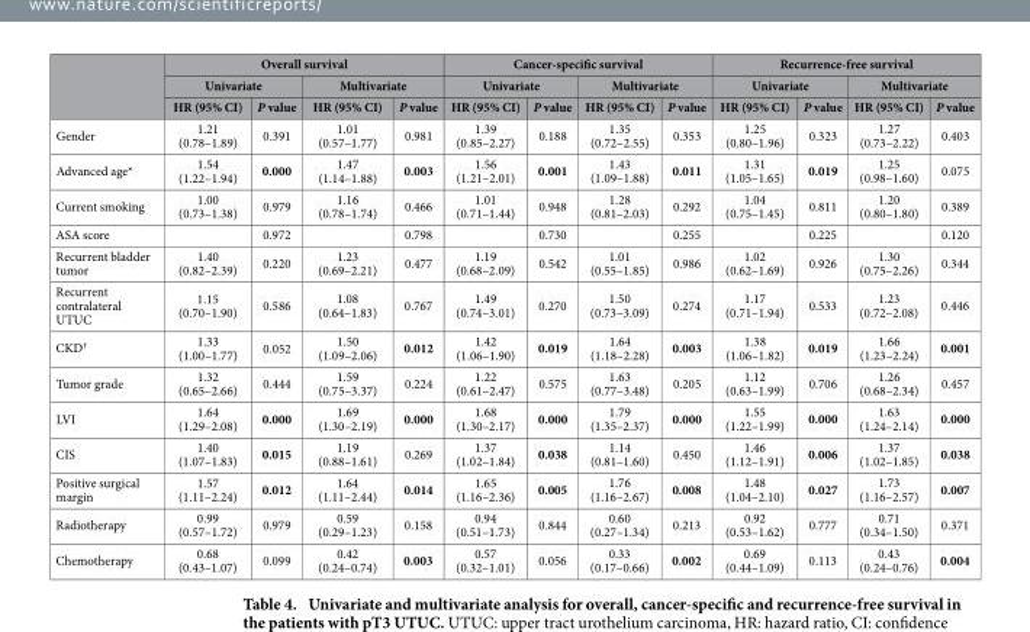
<table><thead><tr><td rowspan="3"></td><td colspan="4">Overall survival</td><td colspan="4">Cancer-specific survival</td><td colspan="4">Recurrence-free survival</td></tr><tr><td colspan="2">Univariate</td><td colspan="2">Multivariate</td><td colspan="2">Univariate</td><td colspan="2">Multivariate</td><td colspan="2">Univariate</td><td colspan="2">Multivariate</td></tr><tr><td>HR (95% CI)</td><td>P value</td><td>HR (95% CI)</td><td>P value</td><td>HR (95% CI)</td><td>P value</td><td>HR (95% CI)</td><td>P value</td><td>HR (95% CI)</td><td>P value</td><td>HR (95% CI)</td><td>P value</td></tr></thead><tbody><tr><td>Gender</td><td>1.21 (0.78–1.89)</td><td>0.391</td><td>1.01 (0.57–1.77)</td><td>0.981</td><td>1.39 (0.85–2.27)</td><td>0.188</td><td>1.35 (0.72–2.55)</td><td>0.353</td><td>1.25 (0.80–1.96)</td><td>0.323</td><td>1.27 (0.73–2.22)</td><td>0.403</td></tr><tr><td>Advanced age*</td><td>1.54 (1.22–1.94)</td><td>0.000</td><td>1.47 (1.14–1.88)</td><td>0.003</td><td>1.56 (1.21–2.01)</td><td>0.001</td><td>1.43 (1.09–1.88)</td><td>0.011</td><td>1.31 (1.05–1.65)</td><td>0.019</td><td>1.25 (0.98–1.60)</td><td>0.075</td></tr><tr><td>Current smoking</td><td>1.00 (0.73–1.38)</td><td>0.979</td><td>1.16 (0.78–1.74)</td><td>0.466</td><td>1.01 (0.71–1.44)</td><td>0.948</td><td>1.28 (0.81–2.03)</td><td>0.292</td><td>1.04 (0.75–1.45)</td><td>0.811</td><td>1.20 (0.80–1.80)</td><td>0.389</td></tr><tr><td>ASA score</td><td></td><td>0.972</td><td></td><td>0.798</td><td></td><td>0.730</td><td></td><td>0.255</td><td></td><td>0.225</td><td></td><td>0.120</td></tr><tr><td>Recurrent bladder tumor</td><td>1.40 (0.82–2.39)</td><td>0.220</td><td>1.23 (0.69–2.21)</td><td>0.477</td><td>1.19 (0.68–2.09)</td><td>0.542</td><td>1.01 (0.55–1.85)</td><td>0.986</td><td>1.02 (0.62–1.69)</td><td>0.926</td><td>1.30 (0.75–2.26)</td><td>0.344</td></tr><tr><td>Recurrent contralateral UTUC</td><td>1.15 (0.70–1.90)</td><td>0.586</td><td>1.08 (0.64–1.83)</td><td>0.767</td><td>1.49 (0.74–3.01)</td><td>0.270</td><td>1.50 (0.73–3.09)</td><td>0.274</td><td>1.17 (0.71–1.94)</td><td>0.533</td><td>1.23 (0.72–2.08)</td><td>0.446</td></tr><tr><td>CKD†</td><td>1.33 (1.00–1.77)</td><td>0.052</td><td>1.50 (1.09–2.06)</td><td>0.012</td><td>1.42 (1.06–1.90)</td><td>0.019</td><td>1.64 (1.18–2.28)</td><td>0.003</td><td>1.38 (1.06–1.82)</td><td>0.019</td><td>1.66 (1.23–2.24)</td><td>0.001</td></tr><tr><td>Tumor grade</td><td>1.32 (0.65–2.66)</td><td>0.444</td><td>1.59 (0.75–3.37)</td><td>0.224</td><td>1.22 (0.61–2.47)</td><td>0.575</td><td>1.63 (0.77–3.48)</td><td>0.205</td><td>1.12 (0.63–1.99)</td><td>0.706</td><td>1.26 (0.68–2.34)</td><td>0.457</td></tr><tr><td>LVI</td><td>1.64 (1.29–2.08)</td><td>0.000</td><td>1.69 (1.30–2.19)</td><td>0.000</td><td>1.68 (1.30–2.17)</td><td>0.000</td><td>1.79 (1.35–2.37)</td><td>0.000</td><td>1.55 (1.22–1.99)</td><td>0.000</td><td>1.63 (1.24–2.14)</td><td>0.000</td></tr><tr><td>CIS</td><td>1.40 (1.07–1.83)</td><td>0.015</td><td>1.19 (0.88–1.61)</td><td>0.269</td><td>1.37 (1.02–1.84)</td><td>0.038</td><td>1.14 (0.81–1.60)</td><td>0.450</td><td>1.46 (1.12–1.91)</td><td>0.006</td><td>1.37 (1.02–1.85)</td><td>0.038</td></tr><tr><td>Positive surgical margin</td><td>1.57 (1.11–2.24)</td><td>0.012</td><td>1.64 (1.11–2.44)</td><td>0.014</td><td>1.65 (1.16–2.36)</td><td>0.005</td><td>1.76 (1.16–2.67)</td><td>0.008</td><td>1.48 (1.04–2.10)</td><td>0.027</td><td>1.73 (1.16–2.57)</td><td>0.007</td></tr><tr><td>Radiotherapy</td><td>0.99 (0.57–1.72)</td><td>0.979</td><td>0.59 (0.29–1.23)</td><td>0.158</td><td>0.94 (0.51–1.73)</td><td>0.844</td><td>0.60 (0.27–1.34)</td><td>0.213</td><td>0.92 (0.53–1.62)</td><td>0.777</td><td>0.71 (0.34–1.50)</td><td>0.371</td></tr><tr><td>Chemotherapy</td><td>0.68 (0.43–1.07)</td><td>0.099</td><td>0.42 (0.24–0.74)</td><td>0.003</td><td>0.57 (0.32–1.01)</td><td>0.056</td><td>0.33 (0.17–0.66)</td><td>0.002</td><td>0.69 (0.44–1.09)</td><td>0.113</td><td>0.43 (0.24–0.76)</td><td>0.004</td></tr></tbody></table>